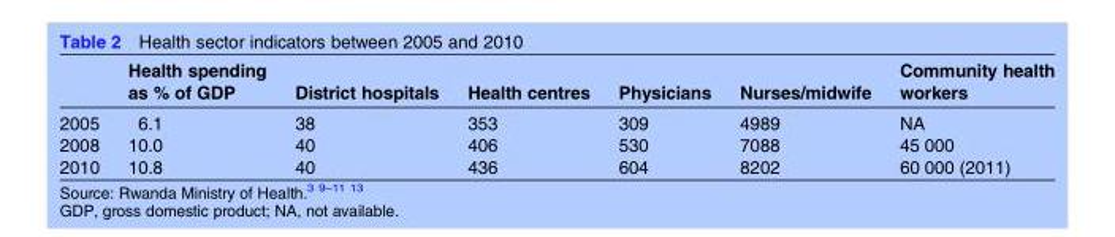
<table><thead><tr><td></td><td>Health spending as % of GDP</td><td>District hospitals</td><td>Health centres</td><td>Physicians</td><td>Nurses/midwife</td><td>Community health workers</td></tr></thead><tbody><tr><td>2005</td><td>6.1</td><td>38</td><td>353</td><td>309</td><td>4989</td><td>NA</td></tr><tr><td>2008</td><td>10.0</td><td>40</td><td>406</td><td>530</td><td>7088</td><td>45 000</td></tr><tr><td>2010</td><td>10.8</td><td>40</td><td>436</td><td>604</td><td>8202</td><td>60 000 (2011)</td></tr></tbody></table>